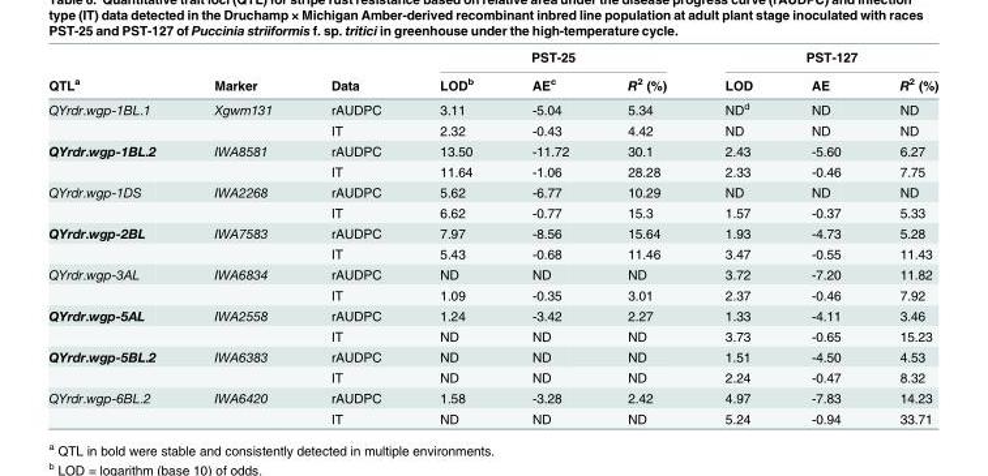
<table><thead><tr><td rowspan="2">QTL<sup>a</sup></td><td rowspan="2">Marker</td><td rowspan="2">Data</td><td colspan="3">PST-25</td><td colspan="3">PST-127</td></tr><tr><td>LOD<sup>b</sup></td><td>AE<sup>c</sup></td><td>R<sup>2</sup> (%)</td><td>LOD</td><td>AE</td><td>R<sup>2</sup> (%)</td></tr></thead><tbody><tr><td rowspan="2">QYrdr.wgp-1BL.1</td><td>Xgwm131</td><td>rAUDPC</td><td>3.11</td><td>-5.04</td><td>5.34</td><td>ND<sup>d</sup></td><td>ND</td><td>ND</td></tr><tr><td></td><td>IT</td><td>2.32</td><td>-0.43</td><td>4.42</td><td>ND</td><td>ND</td><td>ND</td></tr><tr><td rowspan="2">QYrdr.wgp-1BL.2</td><td>IWA8581</td><td>rAUDPC</td><td>13.50</td><td>-11.72</td><td>30.1</td><td>2.43</td><td>-5.60</td><td>6.27</td></tr><tr><td></td><td>IT</td><td>11.64</td><td>-1.06</td><td>28.28</td><td>2.33</td><td>-0.46</td><td>7.75</td></tr><tr><td rowspan="2">QYrdr.wgp-1DS</td><td>IWA2268</td><td>rAUDPC</td><td>5.62</td><td>-6.77</td><td>10.29</td><td>ND</td><td>ND</td><td>ND</td></tr><tr><td></td><td>IT</td><td>6.62</td><td>-0.77</td><td>15.3</td><td>1.57</td><td>-0.37</td><td>5.33</td></tr><tr><td rowspan="2">QYrdr.wgp-2BL</td><td>IWA7583</td><td>rAUDPC</td><td>7.97</td><td>-8.56</td><td>15.64</td><td>1.93</td><td>-4.73</td><td>5.28</td></tr><tr><td></td><td>IT</td><td>5.43</td><td>-0.68</td><td>11.46</td><td>3.47</td><td>-0.55</td><td>11.43</td></tr><tr><td rowspan="2">QYrdr.wgp-3AL</td><td>IWA6834</td><td>rAUDPC</td><td>ND</td><td>ND</td><td>ND</td><td>3.72</td><td>-7.20</td><td>11.82</td></tr><tr><td></td><td>IT</td><td>1.09</td><td>-0.35</td><td>3.01</td><td>2.37</td><td>-0.46</td><td>7.92</td></tr><tr><td rowspan="2">QYrdr.wgp-5AL</td><td>IWA2558</td><td>rAUDPC</td><td>1.24</td><td>-3.42</td><td>2.27</td><td>1.33</td><td>-4.11</td><td>3.46</td></tr><tr><td></td><td>IT</td><td>ND</td><td>ND</td><td>ND</td><td>3.73</td><td>-0.65</td><td>15.23</td></tr><tr><td rowspan="2">QYrdr.wgp-5BL.2</td><td>IWA6383</td><td>rAUDPC</td><td>ND</td><td>ND</td><td>ND</td><td>1.51</td><td>-4.50</td><td>4.53</td></tr><tr><td></td><td>IT</td><td>ND</td><td>ND</td><td>ND</td><td>2.24</td><td>-0.47</td><td>8.32</td></tr><tr><td rowspan="2">QYrdr.wgp-6BL.2</td><td>IWA6420</td><td>rAUDPC</td><td>1.58</td><td>-3.28</td><td>2.42</td><td>4.97</td><td>-7.83</td><td>14.23</td></tr><tr><td></td><td>IT</td><td>ND</td><td>ND</td><td>ND</td><td>5.24</td><td>-0.94</td><td>33.71</td></tr></tbody></table>